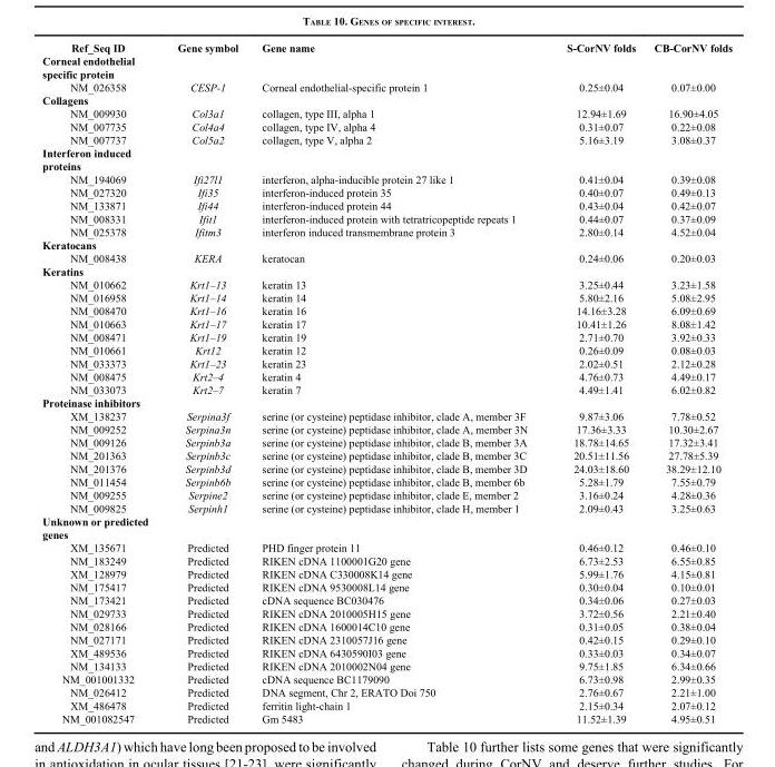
<table><thead><tr><td>Ref_Seq ID</td><td>Gene symbol</td><td>Gene name</td><td>S-CorNV folds</td><td>CB-CorNV folds</td></tr></thead><tbody><tr><td colspan="5">Corneal endothelial specific protein</td></tr><tr><td>NM_026358</td><td>CESP-1</td><td>Corneal endothelial-specific protein 1</td><td>0.25±0.04</td><td>0.07±0.00</td></tr><tr><td colspan="5">Collagens</td></tr><tr><td>NM_009930</td><td>Col3a1</td><td>collagen, type III, alpha 1</td><td>12.94±1.69</td><td>16.90±4.05</td></tr><tr><td>NM_007735</td><td>Col4a4</td><td>collagen, type IV, alpha 4</td><td>0.31±0.07</td><td>0.22±0.08</td></tr><tr><td>NM_007737</td><td>Col5a2</td><td>collagen, type V, alpha 2</td><td>5.16±3.19</td><td>3.08±0.37</td></tr><tr><td colspan="5">Interferon induced proteins</td></tr><tr><td>NM_194069</td><td>Ifi27l1</td><td>interferon, alpha-inducible protein 27 like 1</td><td>0.41±0.04</td><td>0.39±0.08</td></tr><tr><td>NM_027320</td><td>Ifi35</td><td>interferon-induced protein 35</td><td>0.40±0.07</td><td>0.49±0.13</td></tr><tr><td>NM_133871</td><td>Ifi44</td><td>interferon-induced protein 44</td><td>0.43±0.04</td><td>0.42±0.07</td></tr><tr><td>NM_008331</td><td>Ifit1</td><td>interferon-induced protein with tetratricopeptide repeats 1</td><td>0.44±0.07</td><td>0.37±0.09</td></tr><tr><td>NM_025378</td><td>Ifitm3</td><td>interferon induced transmembrane protein 3</td><td>2.80±0.14</td><td>4.52±0.04</td></tr><tr><td colspan="5">Keratocans</td></tr><tr><td>NM_008438</td><td>KERA</td><td>keratocan</td><td>0.24±0.06</td><td>0.20±0.03</td></tr><tr><td colspan="5">Keratins</td></tr><tr><td>NM_010662</td><td>Krt1–13</td><td>keratin 13</td><td>3.25±0.44</td><td>3.23±1.58</td></tr><tr><td>NM_016958</td><td>Krt1–14</td><td>keratin 14</td><td>5.80±2.16</td><td>5.08±2.95</td></tr><tr><td>NM_008470</td><td>Krt1–16</td><td>keratin 16</td><td>14.16±3.28</td><td>6.09±0.69</td></tr><tr><td>NM_010663</td><td>Krt1–17</td><td>keratin 17</td><td>10.41±1.26</td><td>8.08±1.42</td></tr><tr><td>NM_008471</td><td>Krt1–19</td><td>keratin 19</td><td>2.71±0.70</td><td>3.92±0.33</td></tr><tr><td>NM_010661</td><td>Krt12</td><td>keratin 12</td><td>0.26±0.09</td><td>0.08±0.03</td></tr><tr><td>NM_033373</td><td>Krt1–23</td><td>keratin 23</td><td>2.02±0.51</td><td>2.12±0.28</td></tr><tr><td>NM_008475</td><td>Krt2–4</td><td>keratin 4</td><td>4.76±0.73</td><td>4.49±0.17</td></tr><tr><td>NM_033073</td><td>Krt2–7</td><td>keratin 7</td><td>4.49±1.41</td><td>6.02±0.82</td></tr><tr><td colspan="5">Proteinase inhibitors</td></tr><tr><td>XM_138237</td><td>Serpina3f</td><td>serine (or cysteine) peptidase inhibitor, clade A, member 3F</td><td>9.87±3.06</td><td>7.78±0.52</td></tr><tr><td>NM_009252</td><td>Serpina3n</td><td>serine (or cysteine) peptidase inhibitor, clade A, member 3N</td><td>17.36±3.33</td><td>10.30±2.67</td></tr><tr><td>NM_009126</td><td>Serpinb3a</td><td>serine (or cysteine) peptidase inhibitor, clade B, member 3A</td><td>18.78±14.65</td><td>17.32±3.41</td></tr><tr><td>NM_201363</td><td>Serpinb3c</td><td>serine (or cysteine) peptidase inhibitor, clade B, member 3C</td><td>20.51±11.56</td><td>27.78±5.39</td></tr><tr><td>NM_201376</td><td>Serpinb3d</td><td>serine (or cysteine) peptidase inhibitor, clade B, member 3D</td><td>24.03±18.60</td><td>38.29±12.10</td></tr><tr><td>NM_011454</td><td>Serpinb6b</td><td>serine (or cysteine) peptidase inhibitor, clade B, member 6b</td><td>5.28±1.79</td><td>7.55±0.79</td></tr><tr><td>NM_009255</td><td>Serpine2</td><td>serine (or cysteine) peptidase inhibitor, clade E, member 2</td><td>3.16±0.24</td><td>4.28±0.36</td></tr><tr><td>NM_009825</td><td>Serpinh1</td><td>serine (or cysteine) peptidase inhibitor, clade H, member 1</td><td>2.09±0.43</td><td>3.25±0.63</td></tr><tr><td colspan="5">Unknown or predicted genes</td></tr><tr><td>XM_135671</td><td>Predicted</td><td>PHD finger protein 11</td><td>0.46±0.12</td><td>0.46±0.10</td></tr><tr><td>NM_183249</td><td>Predicted</td><td>RIKEN cDNA 1100001G20 gene</td><td>6.73±2.53</td><td>6.55±0.85</td></tr><tr><td>XM_128979</td><td>Predicted</td><td>RIKEN cDNA C330008K14 gene</td><td>5.99±1.76</td><td>4.15±0.81</td></tr><tr><td>NM_175417</td><td>Predicted</td><td>RIKEN cDNA 9530008L14 gene</td><td>0.30±0.04</td><td>0.10±0.01</td></tr><tr><td>NM_173421</td><td>Predicted</td><td>cDNA sequence BC030476</td><td>0.34±0.06</td><td>0.27±0.03</td></tr><tr><td>NM_029733</td><td>Predicted</td><td>RIKEN cDNA 2010005H15 gene</td><td>3.72±0.56</td><td>2.21±0.40</td></tr><tr><td>NM_028166</td><td>Predicted</td><td>RIKEN cDNA 1600014C10 gene</td><td>0.31±0.05</td><td>0.38±0.04</td></tr><tr><td>NM_027171</td><td>Predicted</td><td>RIKEN cDNA 2310057J16 gene</td><td>0.42±0.15</td><td>0.29±0.10</td></tr><tr><td>XM_489536</td><td>Predicted</td><td>RIKEN cDNA 6430590I03 gene</td><td>0.33±0.03</td><td>0.34±0.07</td></tr><tr><td>NM_134133</td><td>Predicted</td><td>RIKEN cDNA 2010002N04 gene</td><td>9.75±1.85</td><td>6.34±0.66</td></tr><tr><td>NM_001001332</td><td>Predicted</td><td>cDNA sequence BC1179090</td><td>6.73±0.98</td><td>2.99±0.35</td></tr><tr><td>NM_026412</td><td>Predicted</td><td>DNA segment, Chr 2, ERATO Doi 750</td><td>2.76±0.67</td><td>2.21±1.00</td></tr><tr><td>XM_486478</td><td>Predicted</td><td>ferritin light-chain 1</td><td>2.15±0.34</td><td>2.07±0.12</td></tr><tr><td>NM_001082547</td><td>Predicted</td><td>Gm 5483</td><td>11.52±1.39</td><td>4.95±0.51</td></tr></tbody></table>